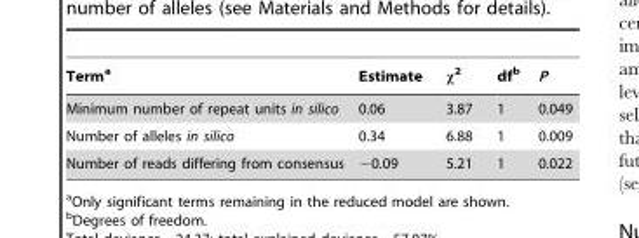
<table><thead><tr><td>Term<sup>a</sup></td><td>Estimate</td><td>χ<sup>2</sup></td><td>df<sup>b</sup></td><td>P</td></tr></thead><tbody><tr><td>Minimum number of repeat units in silico</td><td>0.06</td><td>3.87</td><td>1</td><td>0.049</td></tr><tr><td>Number of alleles in silico</td><td>0.34</td><td>6.88</td><td>1</td><td>0.009</td></tr><tr><td>Number of reads differing from consensus</td><td>−0.09</td><td>5.21</td><td>1</td><td>0.022</td></tr></tbody></table>